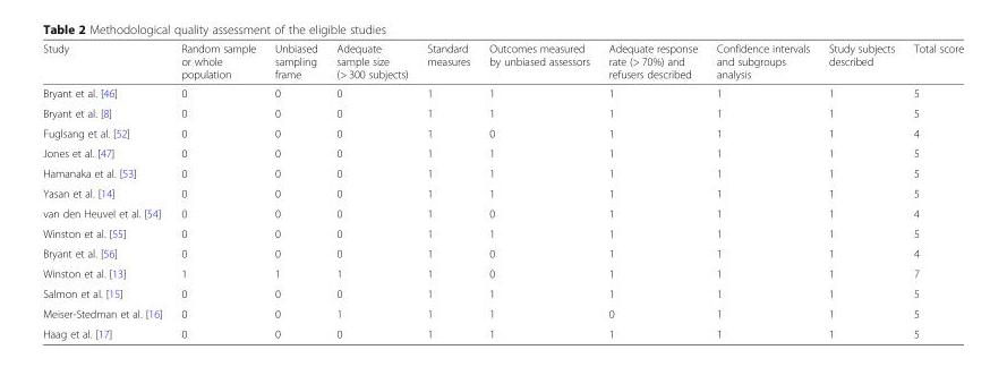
<table><thead><tr><td>Study</td><td>Random sample or whole population</td><td>Unbiased sampling frame</td><td>Adequate sample size (&gt; 300 subjects)</td><td>Standard measures</td><td>Outcomes measured by unbiased assessors</td><td>Adequate response rate (&gt; 70%) and refusers described</td><td>Confidence intervals and subgroups analysis</td><td>Study subjects described</td><td>Total score</td></tr></thead><tbody><tr><td>Bryant et al. [46]</td><td>0</td><td>0</td><td>0</td><td>1</td><td>1</td><td>1</td><td>1</td><td>1</td><td>5</td></tr><tr><td>Bryant et al. [8]</td><td>0</td><td>0</td><td>0</td><td>1</td><td>1</td><td>1</td><td>1</td><td>1</td><td>5</td></tr><tr><td>Fuglsang et al. [52]</td><td>0</td><td>0</td><td>0</td><td>1</td><td>0</td><td>1</td><td>1</td><td>1</td><td>4</td></tr><tr><td>Jones et al. [47]</td><td>0</td><td>0</td><td>0</td><td>1</td><td>1</td><td>1</td><td>1</td><td>1</td><td>5</td></tr><tr><td>Hamanaka et al. [53]</td><td>0</td><td>0</td><td>0</td><td>1</td><td>1</td><td>1</td><td>1</td><td>1</td><td>5</td></tr><tr><td>Yasan et al. [14]</td><td>0</td><td>0</td><td>0</td><td>1</td><td>1</td><td>1</td><td>1</td><td>1</td><td>5</td></tr><tr><td>van den Heuvel et al. [54]</td><td>0</td><td>0</td><td>0</td><td>1</td><td>0</td><td>1</td><td>1</td><td>1</td><td>4</td></tr><tr><td>Winston et al. [55]</td><td>0</td><td>0</td><td>0</td><td>1</td><td>1</td><td>1</td><td>1</td><td>1</td><td>5</td></tr><tr><td>Bryant et al. [56]</td><td>0</td><td>0</td><td>0</td><td>1</td><td>0</td><td>1</td><td>1</td><td>1</td><td>4</td></tr><tr><td>Winston et al. [13]</td><td>1</td><td>1</td><td>1</td><td>1</td><td>0</td><td>1</td><td>1</td><td>1</td><td>7</td></tr><tr><td>Salmon et al. [15]</td><td>0</td><td>0</td><td>0</td><td>1</td><td>1</td><td>1</td><td>1</td><td>1</td><td>5</td></tr><tr><td>Meiser-Stedman et al. [16]</td><td>0</td><td>0</td><td>1</td><td>1</td><td>1</td><td>0</td><td>1</td><td>1</td><td>5</td></tr><tr><td>Haag et al. [17]</td><td>0</td><td>0</td><td>0</td><td>1</td><td>1</td><td>1</td><td>1</td><td>1</td><td>5</td></tr></tbody></table>